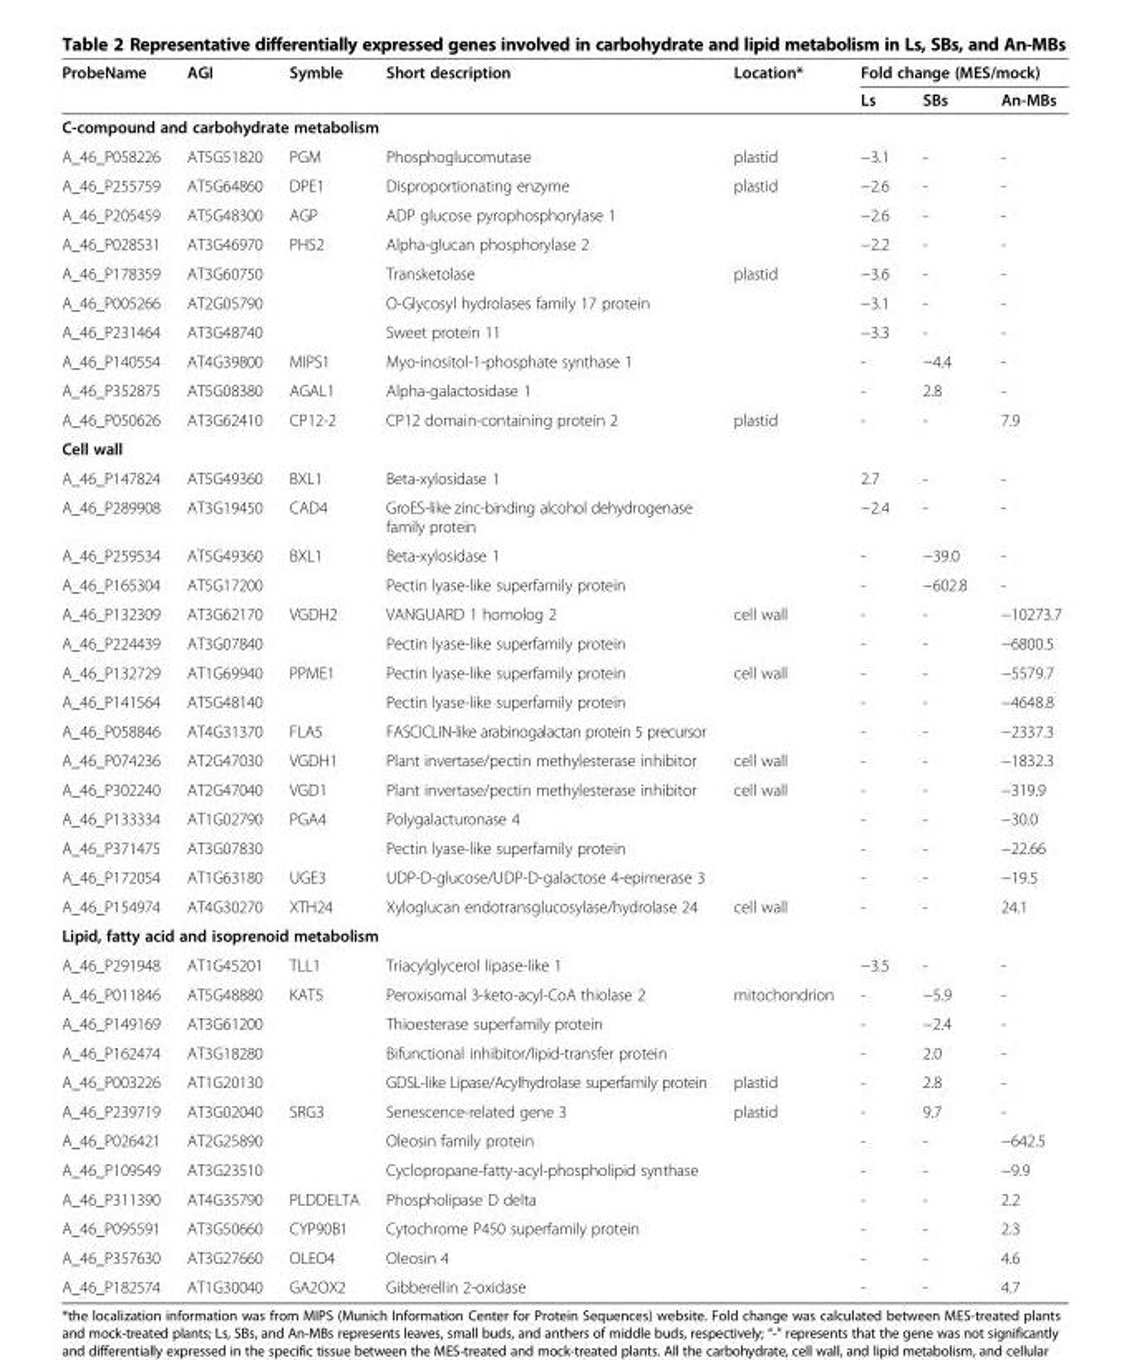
<table><thead><tr><td rowspan="2">ProbeName</td><td rowspan="2">AGI</td><td rowspan="2">Symble</td><td rowspan="2">Short description</td><td rowspan="2">Location*</td><td colspan="3">Fold change (MES/mock)</td></tr><tr><td>Ls</td><td>SBs</td><td>An-MBs</td></tr></thead><tbody><tr><td colspan="8">C-compound and carbohydrate metabolism</td></tr><tr><td>A_46_P058226</td><td>AT5G51820</td><td>PGM</td><td>Phosphoglucomutase</td><td>plastid</td><td>−3.1</td><td>-</td><td>-</td></tr><tr><td>A_46_P255759</td><td>AT5G64860</td><td>DPE1</td><td>Disproportionating enzyme</td><td>plastid</td><td>−2.6</td><td>-</td><td>-</td></tr><tr><td>A_46_P205459</td><td>AT5G48300</td><td>AGP</td><td>ADP glucose pyrophosphorylase 1</td><td></td><td>−2.6</td><td>-</td><td>-</td></tr><tr><td>A_46_P028531</td><td>AT3G46970</td><td>PHS2</td><td>Alpha-glucan phosphorylase 2</td><td></td><td>−2.2</td><td>-</td><td>-</td></tr><tr><td>A_46_P178359</td><td>AT3G60750</td><td></td><td>Transketolase</td><td>plastid</td><td>−3.6</td><td>-</td><td>-</td></tr><tr><td>A_46_P005266</td><td>AT2G05790</td><td></td><td>O-Glycosyl hydrolases family 17 protein</td><td></td><td>−3.1</td><td>-</td><td>-</td></tr><tr><td>A_46_P231464</td><td>AT3G48740</td><td></td><td>Sweet protein 11</td><td></td><td>−3.3</td><td>-</td><td>-</td></tr><tr><td>A_46_P140554</td><td>AT4G39800</td><td>MIPS1</td><td>Myo-inositol-1-phosphate synthase 1</td><td></td><td>-</td><td>−4.4</td><td>-</td></tr><tr><td>A_46_P352875</td><td>AT5G08380</td><td>AGAL1</td><td>Alpha-galactosidase 1</td><td></td><td>-</td><td>2.8</td><td>-</td></tr><tr><td>A_46_P050626</td><td>AT3G62410</td><td>CP12-2</td><td>CP12 domain-containing protein 2</td><td>plastid</td><td>-</td><td>-</td><td>7.9</td></tr><tr><td colspan="8">Cell wall</td></tr><tr><td>A_46_P147824</td><td>AT5G49360</td><td>BXL1</td><td>Beta-xylosidase 1</td><td></td><td>2.7</td><td>-</td><td>-</td></tr><tr><td>A_46_P289908</td><td>AT3G19450</td><td>CAD4</td><td>GroES-like zinc-binding alcohol dehydrogenase family protein</td><td></td><td>−2.4</td><td>-</td><td>-</td></tr><tr><td>A_46_P259534</td><td>AT5G49360</td><td>BXL1</td><td>Beta-xylosidase 1</td><td></td><td>-</td><td>−39.0</td><td>-</td></tr><tr><td>A_46_P165304</td><td>AT5G17200</td><td></td><td>Pectin lyase-like superfamily protein</td><td></td><td>-</td><td>−602.8</td><td>-</td></tr><tr><td>A_46_P132309</td><td>AT3G62170</td><td>VGDH2</td><td>VANGUARD 1 homolog 2</td><td>cell wall</td><td>-</td><td>-</td><td>−10273.7</td></tr><tr><td>A_46_P224439</td><td>AT3G07840</td><td></td><td>Pectin lyase-like superfamily protein</td><td></td><td>-</td><td>-</td><td>−6800.5</td></tr><tr><td>A_46_P132729</td><td>AT1G69940</td><td>PPME1</td><td>Pectin lyase-like superfamily protein</td><td>cell wall</td><td>-</td><td>-</td><td>−5579.7</td></tr><tr><td>A_46_P141564</td><td>AT5G48140</td><td></td><td>Pectin lyase-like superfamily protein</td><td></td><td>-</td><td>-</td><td>−4648.8</td></tr><tr><td>A_46_P058846</td><td>AT4G31370</td><td>FLA5</td><td>FASCICLIN-like arabinogalactan protein 5 precursor</td><td></td><td>-</td><td>-</td><td>−2337.3</td></tr><tr><td>A_46_P074236</td><td>AT2G47030</td><td>VGDH1</td><td>Plant invertase/pectin methylesterase inhibitor</td><td>cell wall</td><td>-</td><td>-</td><td>−1832.3</td></tr><tr><td>A_46_P302240</td><td>AT2G47040</td><td>VGD1</td><td>Plant invertase/pectin methylesterase inhibitor</td><td>cell wall</td><td>-</td><td>-</td><td>−319.9</td></tr><tr><td>A_46_P133334</td><td>AT1G02790</td><td>PGA4</td><td>Polygalacturonase 4</td><td></td><td>-</td><td>-</td><td>−30.0</td></tr><tr><td>A_46_P371475</td><td>AT3G07830</td><td></td><td>Pectin lyase-like superfamily protein</td><td></td><td>-</td><td>-</td><td>−22.66</td></tr><tr><td>A_46_P172054</td><td>AT1G63180</td><td>UGE3</td><td>UDP-D-glucose/UDP-D-galactose 4-epimerase 3</td><td></td><td>-</td><td>-</td><td>−19.5</td></tr><tr><td>A_46_P154974</td><td>AT4G30270</td><td>XTH24</td><td>Xyloglucan endotransglucosylase/hydrolase 24</td><td>cell wall</td><td>-</td><td>-</td><td>24.1</td></tr><tr><td colspan="8">Lipid, fatty acid and isoprenoid metabolism</td></tr><tr><td>A_46_P291948</td><td>AT1G45201</td><td>TLL1</td><td>Triacylglycerol lipase-like 1</td><td></td><td>−3.5</td><td>-</td><td>-</td></tr><tr><td>A_46_P011846</td><td>AT5G48880</td><td>KAT5</td><td>Peroxisomal 3-keto-acyl-CoA thiolase 2</td><td>mitochondrion</td><td>-</td><td>−5.9</td><td>-</td></tr><tr><td>A_46_P149169</td><td>AT3G61200</td><td></td><td>Thioesterase superfamily protein</td><td></td><td>-</td><td>−2.4</td><td>-</td></tr><tr><td>A_46_P162474</td><td>AT3G18280</td><td></td><td>Bifunctional inhibitor/lipid-transfer protein</td><td></td><td>-</td><td>2.0</td><td>-</td></tr><tr><td>A_46_P003226</td><td>AT1G20130</td><td></td><td>GDSL-like Lipase/Acylhydrolase superfamily protein</td><td>plastid</td><td>-</td><td>2.8</td><td>-</td></tr><tr><td>A_46_P239719</td><td>AT3G02040</td><td>SRG3</td><td>Senescence-related gene 3</td><td>plastid</td><td>-</td><td>9.7</td><td>-</td></tr><tr><td>A_46_P026421</td><td>AT2G25890</td><td></td><td>Oleosin family protein</td><td></td><td>-</td><td>-</td><td>−642.5</td></tr><tr><td>A_46_P109549</td><td>AT3G23510</td><td></td><td>Cyclopropane-fatty-acyl-phospholipid synthase</td><td></td><td>-</td><td>-</td><td>−9.9</td></tr><tr><td>A_46_P311390</td><td>AT4G35790</td><td>PLDDELTA</td><td>Phospholipase D delta</td><td></td><td>-</td><td>-</td><td>2.2</td></tr><tr><td>A_46_P095591</td><td>AT3G50660</td><td>CYP90B1</td><td>Cytochrome P450 superfamily protein</td><td></td><td>-</td><td>-</td><td>2.3</td></tr><tr><td>A_46_P357630</td><td>AT3G27660</td><td>OLEO4</td><td>Oleosin 4</td><td></td><td>-</td><td>-</td><td>4.6</td></tr><tr><td>A_46_P182574</td><td>AT1G30040</td><td>GA2OX2</td><td>Gibberellin 2-oxidase</td><td></td><td>-</td><td>-</td><td>4.7</td></tr></tbody></table>